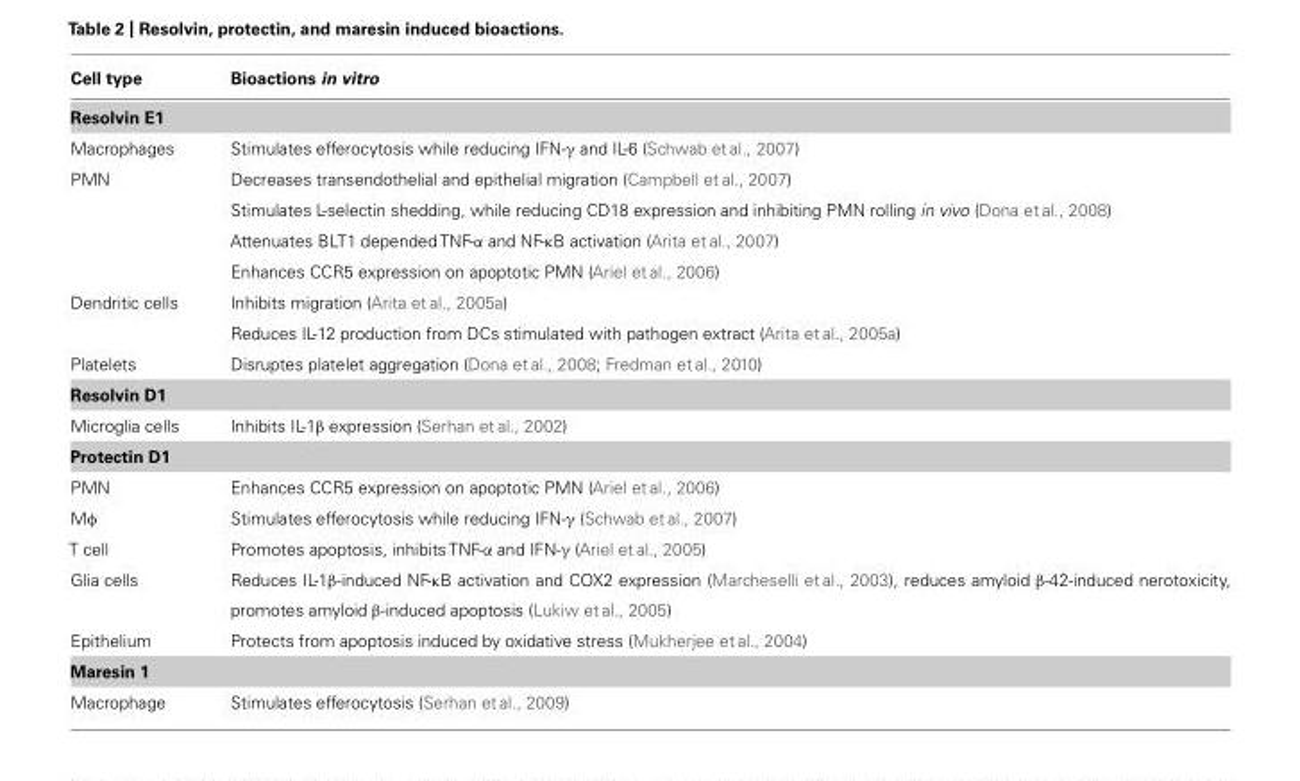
<table><thead><tr><td>Cell type</td><td>Bioactions in vitro</td></tr><tr><td colspan="2">Resolvin E1</td></tr></thead><tbody><tr><td>Macrophages</td><td>Stimulates efferocytosis while reducing IFN-γ and IL-6 (Schwab et al., 2007)</td></tr><tr><td rowspan="4">PMN</td><td>Decreases transendothelial and epithelial migration (Campbell et al., 2007)</td></tr><tr><td>Stimulates L-selectin shedding, while reducing CD18 expression and inhibiting PMN rolling in vivo (Dona et al., 2008)</td></tr><tr><td>Attenuates BLT1 depended TNF-α and NF-κB activation (Arita et al., 2007)</td></tr><tr><td>Enhances CCR5 expression on apoptotic PMN (Ariel et al., 2006)</td></tr><tr><td rowspan="2">Dendritic cells</td><td>Inhibits migration (Arita et al., 2005a)</td></tr><tr><td>Reduces IL-12 production from DCs stimulated with pathogen extract (Arita et al., 2005a)</td></tr><tr><td>Platelets</td><td>Disruptes platelet aggregation (Dona et al., 2008; Fredman et al., 2010)</td></tr><tr><td colspan="2">Resolvin D1</td></tr><tr><td>Microglia cells</td><td>Inhibits IL-1β expression (Serhan et al., 2002)</td></tr><tr><td colspan="2">Protectin D1</td></tr><tr><td>PMN</td><td>Enhances CCR5 expression on apoptotic PMN (Ariel et al., 2006)</td></tr><tr><td>Mφ</td><td>Stimulates efferocytosis while reducing IFN-γ (Schwab et al., 2007)</td></tr><tr><td>T cell</td><td>Promotes apoptosis, inhibits TNF-α and IFN-γ (Ariel et al., 2005)</td></tr><tr><td>Glia cells</td><td>Reduces IL-1β-induced NF-κB activation and COX2 expression (Marcheselli et al., 2003), reduces amyloid β-42-induced nerotoxicity, promotes amyloid β-induced apoptosis (Lukiw et al., 2005)</td></tr><tr><td>Epithelium</td><td>Protects from apoptosis induced by oxidative stress (Mukherjee et al., 2004)</td></tr><tr><td colspan="2">Maresin 1</td></tr><tr><td>Macrophage</td><td>Stimulates efferocytosis (Serhan et al., 2009)</td></tr></tbody></table>